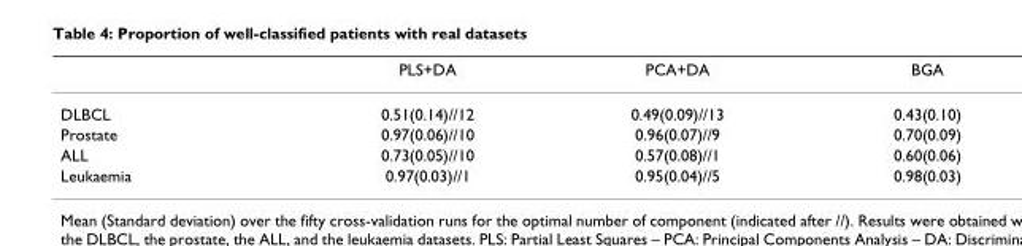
<table><thead><tr><td></td><td>PLS+DA</td><td>PCA+DA</td><td>BGA</td></tr></thead><tbody><tr><td>DLBCL</td><td>0.51(0.14)//12</td><td>0.49(0.09)//13</td><td>0.43(0.10)</td></tr><tr><td>Prostate</td><td>0.97(0.06)//10</td><td>0.96(0.07)//9</td><td>0.70(0.09)</td></tr><tr><td>ALL</td><td>0.73(0.05)//10</td><td>0.57(0.08)//1</td><td>0.60(0.06)</td></tr><tr><td>Leukaemia</td><td>0.97(0.03)//1</td><td>0.95(0.04)//5</td><td>0.98(0.03)</td></tr></tbody></table>